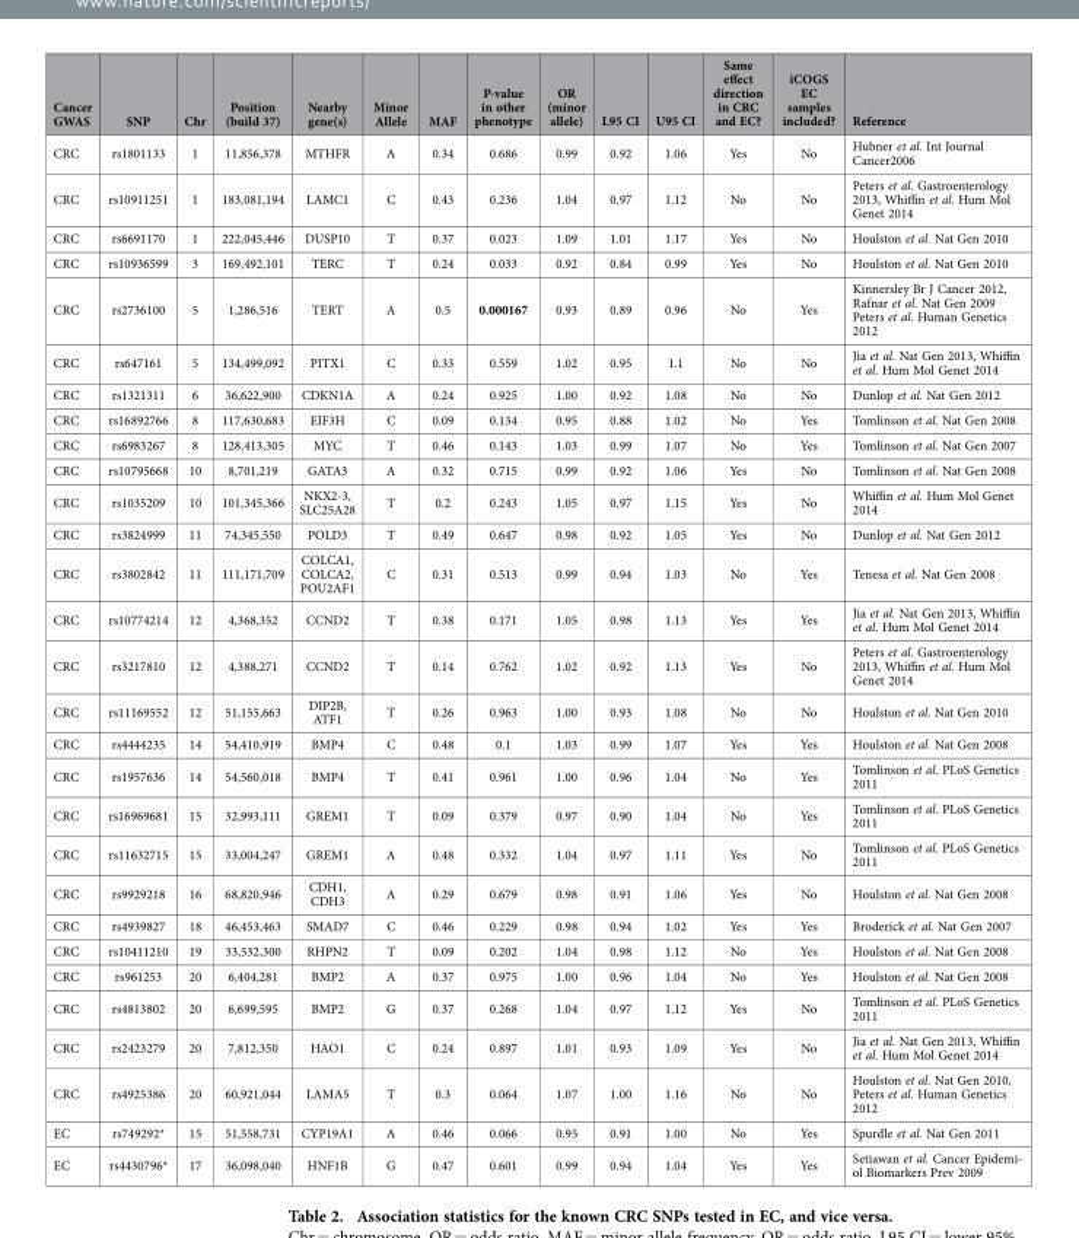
<table><thead><tr><td>Cancer GWAS</td><td>SNP</td><td>Chr</td><td>Position (build 37)</td><td>Nearby gene(s)</td><td>Minor Allele</td><td>MAF</td><td>P-value in other phenotype</td><td>OR (minor allele)</td><td>L95 CI</td><td>U95 CI</td><td>Same effect direction in CRC and EC?</td><td>iCOGS EC samples included?</td><td>Reference</td></tr></thead><tbody><tr><td>CRC</td><td>rs1801133</td><td>1</td><td>11,856,378</td><td>MTHFR</td><td>A</td><td>0.34</td><td>0.686</td><td>0.99</td><td>0.92</td><td>1.06</td><td>Yes</td><td>No</td><td>Hubner et al. Int Journal Cancer2006</td></tr><tr><td>CRC</td><td>rs10911251</td><td>1</td><td>183,081,194</td><td>LAMC1</td><td>C</td><td>0.43</td><td>0.236</td><td>1.04</td><td>0.97</td><td>1.12</td><td>No</td><td>No</td><td>Peters et al. Gastroenterology 2013, Whiffin et al. Hum Mol Genet 2014</td></tr><tr><td>CRC</td><td>rs6691170</td><td>1</td><td>222,045,446</td><td>DUSP10</td><td>T</td><td>0.37</td><td>0.023</td><td>1.09</td><td>1.01</td><td>1.17</td><td>Yes</td><td>No</td><td>Houlston et al. Nat Gen 2010</td></tr><tr><td>CRC</td><td>rs10936599</td><td>3</td><td>169,492,101</td><td>TERC</td><td>T</td><td>0.24</td><td>0.033</td><td>0.92</td><td>0.84</td><td>0.99</td><td>Yes</td><td>No</td><td>Houlston et al. Nat Gen 2010</td></tr><tr><td>CRC</td><td>rs2736100</td><td>5</td><td>1,286,516</td><td>TERT</td><td>A</td><td>0.5</td><td>0.000167</td><td>0.93</td><td>0.89</td><td>0.96</td><td>No</td><td>Yes</td><td>Kinnersley Br J Cancer 2012, Rafnar et al. Nat Gen 2009 Peters et al. Human Genetics 2012</td></tr><tr><td>CRC</td><td>rs647161</td><td>5</td><td>134,499,092</td><td>PITX1</td><td>C</td><td>0.33</td><td>0.559</td><td>1.02</td><td>0.95</td><td>1.1</td><td>No</td><td>No</td><td>Jia et al. Nat Gen 2013, Whiffin et al. Hum Mol Genet 2014</td></tr><tr><td>CRC</td><td>rs1321311</td><td>6</td><td>36,622,900</td><td>CDKN1A</td><td>A</td><td>0.24</td><td>0.925</td><td>1.00</td><td>0.92</td><td>1.08</td><td>No</td><td>No</td><td>Dunlop et al. Nat Gen 2012</td></tr><tr><td>CRC</td><td>rs16892766</td><td>8</td><td>117,630,683</td><td>EIF3H</td><td>C</td><td>0.09</td><td>0.134</td><td>0.95</td><td>0.88</td><td>1.02</td><td>No</td><td>Yes</td><td>Tomlinson et al. Nat Gen 2008</td></tr><tr><td>CRC</td><td>rs6983267</td><td>8</td><td>128,413,305</td><td>MYC</td><td>T</td><td>0.46</td><td>0.143</td><td>1.03</td><td>0.99</td><td>1.07</td><td>No</td><td>Yes</td><td>Tomlinson et al. Nat Gen 2007</td></tr><tr><td>CRC</td><td>rs10795668</td><td>10</td><td>8,701,219</td><td>GATA3</td><td>A</td><td>0.32</td><td>0.715</td><td>0.99</td><td>0.92</td><td>1.06</td><td>Yes</td><td>No</td><td>Tomlinson et al. Nat Gen 2008</td></tr><tr><td>CRC</td><td>rs1035209</td><td>10</td><td>101,345,366</td><td>NKX2-3, SLC25A28</td><td>T</td><td>0.2</td><td>0.243</td><td>1.05</td><td>0.97</td><td>1.15</td><td>Yes</td><td>No</td><td>Whiffin et al. Hum Mol Genet 2014</td></tr><tr><td>CRC</td><td>rs3824999</td><td>11</td><td>74,345,550</td><td>POLD3</td><td>T</td><td>0.49</td><td>0.647</td><td>0.98</td><td>0.92</td><td>1.05</td><td>Yes</td><td>No</td><td>Dunlop et al. Nat Gen 2012</td></tr><tr><td>CRC</td><td>rs3802842</td><td>11</td><td>111,171,709</td><td>COLCA1, COLCA2, POU2AF1</td><td>C</td><td>0.31</td><td>0.513</td><td>0.99</td><td>0.94</td><td>1.03</td><td>No</td><td>Yes</td><td>Tenesa et al. Nat Gen 2008</td></tr><tr><td>CRC</td><td>rs10774214</td><td>12</td><td>4,368,352</td><td>CCND2</td><td>T</td><td>0.38</td><td>0.171</td><td>1.05</td><td>0.98</td><td>1.13</td><td>Yes</td><td>Yes</td><td>Jia et al. Nat Gen 2013, Whiffin et al. Hum Mol Genet 2014</td></tr><tr><td>CRC</td><td>rs3217810</td><td>12</td><td>4,388,271</td><td>CCND2</td><td>T</td><td>0.14</td><td>0.762</td><td>1.02</td><td>0.92</td><td>1.13</td><td>Yes</td><td>No</td><td>Peters et al. Gastroenterology 2013, Whiffin et al. Hum Mol Genet 2014</td></tr><tr><td>CRC</td><td>rs11169552</td><td>12</td><td>51,155,663</td><td>DIP2B, ATF1</td><td>T</td><td>0.26</td><td>0.963</td><td>1.00</td><td>0.93</td><td>1.08</td><td>No</td><td>No</td><td>Houlston et al. Nat Gen 2010</td></tr><tr><td>CRC</td><td>rs4444235</td><td>14</td><td>54,410,919</td><td>BMP4</td><td>C</td><td>0.48</td><td>0.1</td><td>1.03</td><td>0.99</td><td>1.07</td><td>Yes</td><td>Yes</td><td>Houlston et al. Nat Gen 2008</td></tr><tr><td>CRC</td><td>rs1957636</td><td>14</td><td>54,560,018</td><td>BMP4</td><td>T</td><td>0.41</td><td>0.961</td><td>1.00</td><td>0.96</td><td>1.04</td><td>No</td><td>Yes</td><td>Tomlinson et al. PLoS Genetics 2011</td></tr><tr><td>CRC</td><td>rs16969681</td><td>15</td><td>32,993,111</td><td>GREM1</td><td>T</td><td>0.09</td><td>0.379</td><td>0.97</td><td>0.90</td><td>1.04</td><td>No</td><td>Yes</td><td>Tomlinson et al. PLoS Genetics 2011</td></tr><tr><td>CRC</td><td>rs11632715</td><td>15</td><td>33,004,247</td><td>GREM1</td><td>A</td><td>0.48</td><td>0.332</td><td>1.04</td><td>0.97</td><td>1.11</td><td>Yes</td><td>No</td><td>Tomlinson et al. PLoS Genetics 2011</td></tr><tr><td>CRC</td><td>rs9929218</td><td>16</td><td>68,820,946</td><td>CDH1, CDH3</td><td>A</td><td>0.29</td><td>0.679</td><td>0.98</td><td>0.91</td><td>1.06</td><td>Yes</td><td>No</td><td>Houlston et al. Nat Gen 2008</td></tr><tr><td>CRC</td><td>rs4939827</td><td>18</td><td>46,453,463</td><td>SMAD7</td><td>C</td><td>0.46</td><td>0.229</td><td>0.98</td><td>0.94</td><td>1.02</td><td>Yes</td><td>Yes</td><td>Broderick et al. Nat Gen 2007</td></tr><tr><td>CRC</td><td>rs10411210</td><td>19</td><td>33,532,300</td><td>RHPN2</td><td>T</td><td>0.09</td><td>0.202</td><td>1.04</td><td>0.98</td><td>1.12</td><td>No</td><td>Yes</td><td>Houlston et al. Nat Gen 2008</td></tr><tr><td>CRC</td><td>rs961253</td><td>20</td><td>6,404,281</td><td>BMP2</td><td>A</td><td>0.37</td><td>0.975</td><td>1.00</td><td>0.96</td><td>1.04</td><td>No</td><td>Yes</td><td>Houlston et al. Nat Gen 2008</td></tr><tr><td>CRC</td><td>rs4813802</td><td>20</td><td>6,699,595</td><td>BMP2</td><td>G</td><td>0.37</td><td>0.268</td><td>1.04</td><td>0.97</td><td>1.12</td><td>Yes</td><td>No</td><td>Tomlinson et al. PLoS Genetics 2011</td></tr><tr><td>CRC</td><td>rs2423279</td><td>20</td><td>7,812,350</td><td>HAO1</td><td>C</td><td>0.24</td><td>0.897</td><td>1.01</td><td>0.93</td><td>1.09</td><td>Yes</td><td>No</td><td>Jia et al. Nat Gen 2013, Whiffin et al. Hum Mol Genet 2014</td></tr><tr><td>CRC</td><td>rs4925386</td><td>20</td><td>60,921,044</td><td>LAMA5</td><td>T</td><td>0.3</td><td>0.064</td><td>1.07</td><td>1.00</td><td>1.16</td><td>No</td><td>No</td><td>Houlston et al. Nat Gen 2010, Peters et al. Human Genetics 2012</td></tr><tr><td>EC</td><td>rs749292*</td><td>15</td><td>51,558,731</td><td>CYP19A1</td><td>A</td><td>0.46</td><td>0.066</td><td>0.95</td><td>0.91</td><td>1.00</td><td>No</td><td>Yes</td><td>Spurdle et al. Nat Gen 2011</td></tr><tr><td>EC</td><td>rs4430796*</td><td>17</td><td>36,098,040</td><td>HNF1B</td><td>G</td><td>0.47</td><td>0.601</td><td>0.99</td><td>0.94</td><td>1.04</td><td>Yes</td><td>Yes</td><td>Setiawan et al. Cancer Epidemi- ol Biomarkers Prev 2009</td></tr></tbody></table>